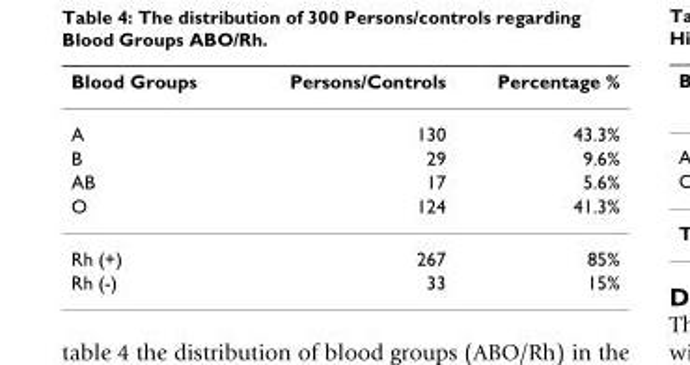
<table><thead><tr><td>Blood Groups</td><td>Persons/Controls</td><td>Percentage %</td></tr></thead><tbody><tr><td>A</td><td>130</td><td>43.3%</td></tr><tr><td>B</td><td>29</td><td>9.6%</td></tr><tr><td>AB</td><td>17</td><td>5.6%</td></tr><tr><td>O</td><td>124</td><td>41.3%</td></tr><tr><td>Rh (+)</td><td>267</td><td>85%</td></tr><tr><td>Rh (-)</td><td>33</td><td>15%</td></tr></tbody></table>